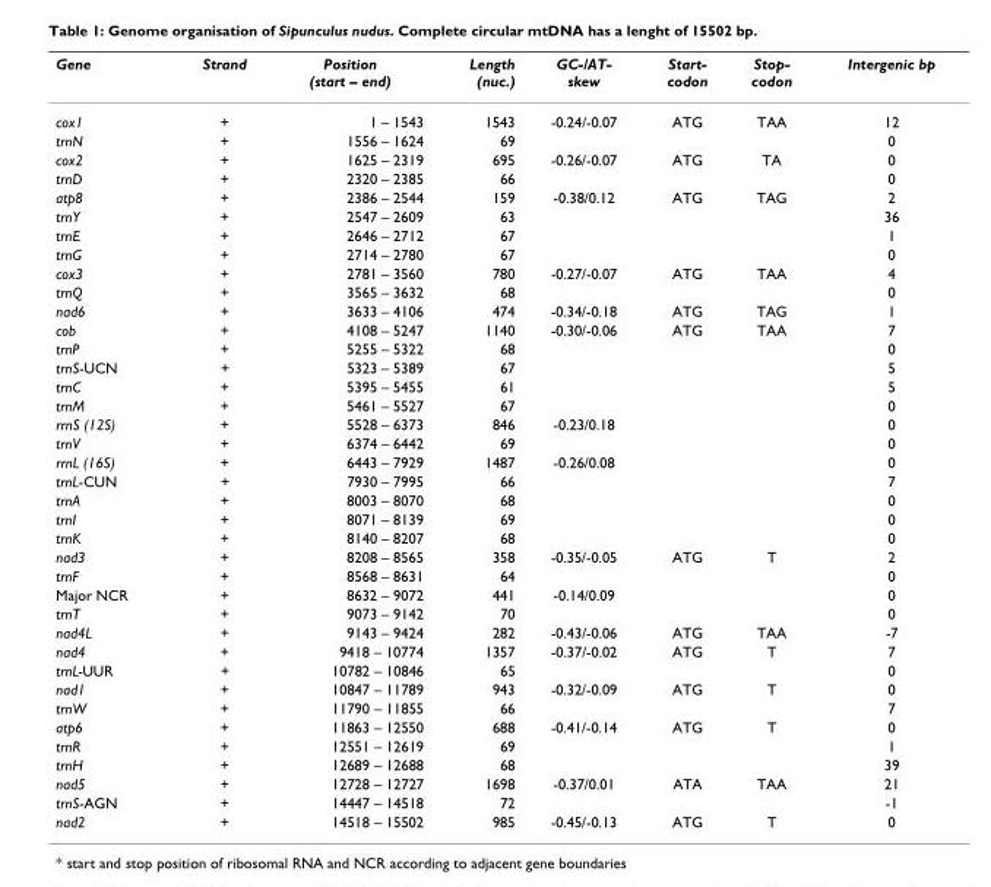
<table><thead><tr><td>Gene</td><td>Strand</td><td>Position (start – end)</td><td>Length (nuc.)</td><td>GC-/AT- skew</td><td>Start- codon</td><td>Stop- codon</td><td>Intergenic bp</td></tr></thead><tbody><tr><td>cox1</td><td>+</td><td>1 – 1543</td><td>1543</td><td>-0.24/-0.07</td><td>ATG</td><td>TAA</td><td>12</td></tr><tr><td>trnN</td><td>+</td><td>1556 – 1624</td><td>69</td><td></td><td></td><td></td><td>0</td></tr><tr><td>cox2</td><td>+</td><td>1625 – 2319</td><td>695</td><td>-0.26/-0.07</td><td>ATG</td><td>TA</td><td>0</td></tr><tr><td>trnD</td><td>+</td><td>2320 – 2385</td><td>66</td><td></td><td></td><td></td><td>0</td></tr><tr><td>atp8</td><td>+</td><td>2386 – 2544</td><td>159</td><td>-0.38/0.12</td><td>ATG</td><td>TAG</td><td>2</td></tr><tr><td>trnY</td><td>+</td><td>2547 – 2609</td><td>63</td><td></td><td></td><td></td><td>36</td></tr><tr><td>trnE</td><td>+</td><td>2646 – 2712</td><td>67</td><td></td><td></td><td></td><td>1</td></tr><tr><td>trnG</td><td>+</td><td>2714 – 2780</td><td>67</td><td></td><td></td><td></td><td>0</td></tr><tr><td>cox3</td><td>+</td><td>2781 – 3560</td><td>780</td><td>-0.27/-0.07</td><td>ATG</td><td>TAA</td><td>4</td></tr><tr><td>trnQ</td><td>+</td><td>3565 – 3632</td><td>68</td><td></td><td></td><td></td><td>0</td></tr><tr><td>nad6</td><td>+</td><td>3633 – 4106</td><td>474</td><td>-0.34/-0.18</td><td>ATG</td><td>TAG</td><td>1</td></tr><tr><td>cob</td><td>+</td><td>4108 – 5247</td><td>1140</td><td>-0.30/-0.06</td><td>ATG</td><td>TAA</td><td>7</td></tr><tr><td>trnP</td><td>+</td><td>5255 – 5322</td><td>68</td><td></td><td></td><td></td><td>0</td></tr><tr><td>trnS-UCN</td><td>+</td><td>5323 – 5389</td><td>67</td><td></td><td></td><td></td><td>5</td></tr><tr><td>trnC</td><td>+</td><td>5395 – 5455</td><td>61</td><td></td><td></td><td></td><td>5</td></tr><tr><td>trnM</td><td>+</td><td>5461 – 5527</td><td>67</td><td></td><td></td><td></td><td>0</td></tr><tr><td>rrnS (12S)</td><td>+</td><td>5528 – 6373</td><td>846</td><td>-0.23/0.18</td><td></td><td></td><td>0</td></tr><tr><td>trnV</td><td>+</td><td>6374 – 6442</td><td>69</td><td></td><td></td><td></td><td>0</td></tr><tr><td>rrnL (16S)</td><td>+</td><td>6443 – 7929</td><td>1487</td><td>-0.26/0.08</td><td></td><td></td><td>0</td></tr><tr><td>trnL-CUN</td><td>+</td><td>7930 – 7995</td><td>66</td><td></td><td></td><td></td><td>7</td></tr><tr><td>trnA</td><td>+</td><td>8003 – 8070</td><td>68</td><td></td><td></td><td></td><td>0</td></tr><tr><td>trnI</td><td>+</td><td>8071 – 8139</td><td>69</td><td></td><td></td><td></td><td>0</td></tr><tr><td>trnK</td><td>+</td><td>8140 – 8207</td><td>68</td><td></td><td></td><td></td><td>0</td></tr><tr><td>nad3</td><td>+</td><td>8208 – 8565</td><td>358</td><td>-0.35/-0.05</td><td>ATG</td><td>T</td><td>2</td></tr><tr><td>trnF</td><td>+</td><td>8568 – 8631</td><td>64</td><td></td><td></td><td></td><td>0</td></tr><tr><td>Major NCR</td><td>+</td><td>8632 – 9072</td><td>441</td><td>-0.14/0.09</td><td></td><td></td><td>0</td></tr><tr><td>trnT</td><td>+</td><td>9073 – 9142</td><td>70</td><td></td><td></td><td></td><td>0</td></tr><tr><td>nad4L</td><td>+</td><td>9143 – 9424</td><td>282</td><td>-0.43/-0.06</td><td>ATG</td><td>TAA</td><td>-7</td></tr><tr><td>nad4</td><td>+</td><td>9418 – 10774</td><td>1357</td><td>-0.37/-0.02</td><td>ATG</td><td>T</td><td>7</td></tr><tr><td>trnL-UUR</td><td>+</td><td>10782 – 10846</td><td>65</td><td></td><td></td><td></td><td>0</td></tr><tr><td>nad1</td><td>+</td><td>10847 – 11789</td><td>943</td><td>-0.32/-0.09</td><td>ATG</td><td>T</td><td>0</td></tr><tr><td>trnW</td><td>+</td><td>11790 – 11855</td><td>66</td><td></td><td></td><td></td><td>7</td></tr><tr><td>atp6</td><td>+</td><td>11863 – 12550</td><td>688</td><td>-0.41/-0.14</td><td>ATG</td><td>T</td><td>0</td></tr><tr><td>trnR</td><td>+</td><td>12551 – 12619</td><td>69</td><td></td><td></td><td></td><td>1</td></tr><tr><td>trnH</td><td>+</td><td>12689 – 12688</td><td>68</td><td></td><td></td><td></td><td>39</td></tr><tr><td>nad5</td><td>+</td><td>12728 – 12727</td><td>1698</td><td>-0.37/0.01</td><td>ATA</td><td>TAA</td><td>21</td></tr><tr><td>trnS-AGN</td><td>+</td><td>14447 – 14518</td><td>72</td><td></td><td></td><td></td><td>-1</td></tr><tr><td>nad2</td><td>+</td><td>14518 – 15502</td><td>985</td><td>-0.45/-0.13</td><td>ATG</td><td>T</td><td>0</td></tr></tbody></table>